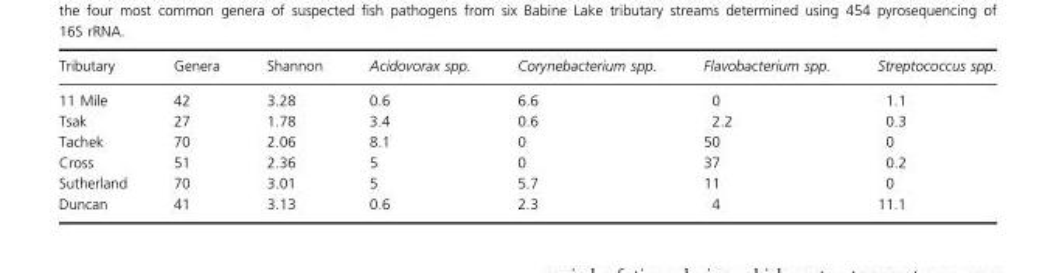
<table><thead><tr><td>Tributary</td><td>Genera</td><td>Shannon</td><td>Acidovorax spp.</td><td>Corynebacterium spp.</td><td>Flavobacterium spp.</td><td>Streptococcus spp.</td></tr></thead><tbody><tr><td>11 Mile</td><td>42</td><td>3.28</td><td>0.6</td><td>6.6</td><td>0</td><td>1.1</td></tr><tr><td>Tsak</td><td>27</td><td>1.78</td><td>3.4</td><td>0.6</td><td>2.2</td><td>0.3</td></tr><tr><td>Tachek</td><td>70</td><td>2.06</td><td>8.1</td><td>0</td><td>50</td><td>0</td></tr><tr><td>Cross</td><td>51</td><td>2.36</td><td>5</td><td>0</td><td>37</td><td>0.2</td></tr><tr><td>Sutherland</td><td>70</td><td>3.01</td><td>5</td><td>5.7</td><td>11</td><td>0</td></tr><tr><td>Duncan</td><td>41</td><td>3.13</td><td>0.6</td><td>2.3</td><td>4</td><td>11.1</td></tr></tbody></table>